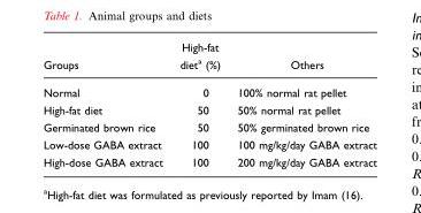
<table><thead><tr><td>Groups</td><td>High-fat diet<sup>a</sup> (%)</td><td>Others</td></tr></thead><tbody><tr><td>Normal</td><td>0</td><td>100% normal rat pellet</td></tr><tr><td>High-fat diet</td><td>50</td><td>50% normal rat pellet</td></tr><tr><td>Germinated brown rice</td><td>50</td><td>50% germinated brown rice</td></tr><tr><td>Low-dose GABA extract</td><td>100</td><td>100 mg/kg/day GABA extract</td></tr><tr><td>High-dose GABA extract</td><td>100</td><td>200 mg/kg/day GABA extract</td></tr></tbody></table>